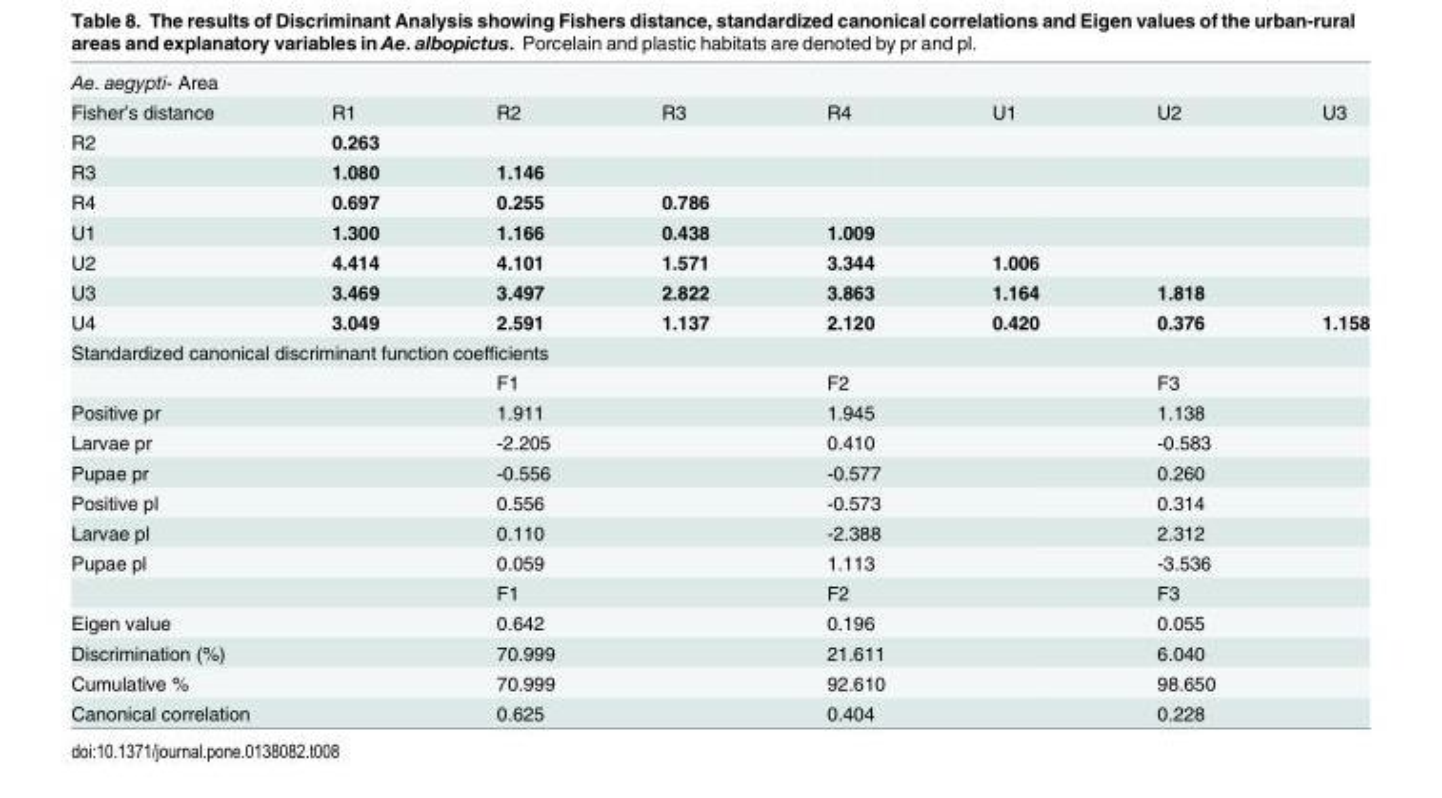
<table><tbody><tr><td colspan="8">Ae. aegypti- Area</td></tr><tr><td>Fisher’s distance</td><td>R1</td><td>R2</td><td>R3</td><td>R4</td><td>U1</td><td>U2</td><td>U3</td></tr><tr><td>R2</td><td>0.263</td><td></td><td></td><td></td><td></td><td></td><td></td></tr><tr><td>R3</td><td>1.080</td><td>1.146</td><td></td><td></td><td></td><td></td><td></td></tr><tr><td>R4</td><td>0.697</td><td>0.255</td><td>0.786</td><td></td><td></td><td></td><td></td></tr><tr><td>U1</td><td>1.300</td><td>1.166</td><td>0.438</td><td>1.009</td><td></td><td></td><td></td></tr><tr><td>U2</td><td>4.414</td><td>4.101</td><td>1.571</td><td>3.344</td><td>1.006</td><td></td><td></td></tr><tr><td>U3</td><td>3.469</td><td>3.497</td><td>2.822</td><td>3.863</td><td>1.164</td><td>1.818</td><td></td></tr><tr><td>U4</td><td>3.049</td><td>2.591</td><td>1.137</td><td>2.120</td><td>0.420</td><td>0.376</td><td>1.158</td></tr><tr><td colspan="8">Standardized canonical discriminant function coefficients</td></tr><tr><td colspan="2"></td><td colspan="2">F1</td><td colspan="2">F2</td><td colspan="2">F3</td></tr><tr><td colspan="2">Positive pr</td><td colspan="2">1.911</td><td colspan="2">1.945</td><td colspan="2">1.138</td></tr><tr><td colspan="2">Larvae pr</td><td colspan="2">-2.205</td><td colspan="2">0.410</td><td colspan="2">-0.583</td></tr><tr><td colspan="2">Pupae pr</td><td colspan="2">-0.556</td><td colspan="2">-0.577</td><td colspan="2">0.260</td></tr><tr><td colspan="2">Positive pl</td><td colspan="2">0.556</td><td colspan="2">-0.573</td><td colspan="2">0.314</td></tr><tr><td colspan="2">Larvae pl</td><td colspan="2">0.110</td><td colspan="2">-2.388</td><td colspan="2">2.312</td></tr><tr><td rowspan="2" colspan="2">Pupae pl</td><td colspan="2">0.059</td><td colspan="2">1.113</td><td colspan="2">-3.536</td></tr><tr><td colspan="2">F1</td><td colspan="2">F2</td><td colspan="2">F3</td></tr><tr><td colspan="2">Eigen value</td><td colspan="2">0.642</td><td colspan="2">0.196</td><td colspan="2">0.055</td></tr><tr><td colspan="2">Discrimination (%)</td><td colspan="2">70.999</td><td colspan="2">21.611</td><td colspan="2">6.040</td></tr><tr><td colspan="2">Cumulative %</td><td colspan="2">70.999</td><td colspan="2">92.610</td><td colspan="2">98.650</td></tr><tr><td colspan="2">Canonical correlation</td><td colspan="2">0.625</td><td colspan="2">0.404</td><td colspan="2">0.228</td></tr></tbody></table>